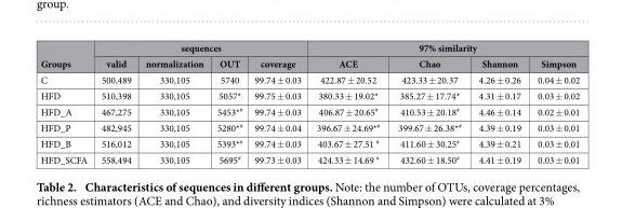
<table><thead><tr><td rowspan="2">Groups</td><td colspan="4">sequences</td><td colspan="4">97% similarity</td></tr><tr><td>valid</td><td>normalization</td><td>OUT</td><td>coverage</td><td>ACE</td><td>Chao</td><td>Shannon</td><td>Simpson</td></tr></thead><tbody><tr><td>C</td><td>500,489</td><td>330,105</td><td>5740</td><td>99.74 ± 0.03</td><td>422.87 ± 20.52</td><td>423.33 ± 20.37</td><td>4.26 ± 0.26</td><td>0.04 ± 0.02</td></tr><tr><td>HFD</td><td>510,398</td><td>330,105</td><td>5057*</td><td>99.75 ± 0.03</td><td>380.33 ± 19.02*</td><td>385.27 ± 17.74*</td><td>4.31 ± 0.17</td><td>0.03 ± 0.02</td></tr><tr><td>HFD_A</td><td>467,275</td><td>330,105</td><td>5453*<sup>#</sup></td><td>99.74 ± 0.03</td><td>406.87 ± 20.65<sup>#</sup></td><td>410.53 ± 20.18<sup>#</sup></td><td>4.46 ± 0.14</td><td>0.02 ± 0.01</td></tr><tr><td>HFD_P</td><td>482,945</td><td>330,105</td><td>5280*<sup>#</sup></td><td>99.74 ± 0.04</td><td>396.67 ± 24.69*<sup>#</sup></td><td>399.67 ± 26.38*<sup>#</sup></td><td>4.39 ± 0.19</td><td>0.03 ± 0.01</td></tr><tr><td>HFD_B</td><td>516,012</td><td>330,105</td><td>5393*<sup>#</sup></td><td>99.74 ± 0.03</td><td>403.67 ± 27.51 <sup>#</sup></td><td>411.60 ± 30.25<sup>#</sup></td><td>4.39 ± 0.21</td><td>0.03 ± 0.01</td></tr><tr><td>HFD_SCFA</td><td>558,494</td><td>330,105</td><td>5695<sup>#</sup></td><td>99.73 ± 0.03</td><td>424.33 ± 14.69 <sup>#</sup></td><td>432.60 ± 18.50<sup>#</sup></td><td>4.41 ± 0.19</td><td>0.03 ± 0.01</td></tr></tbody></table>